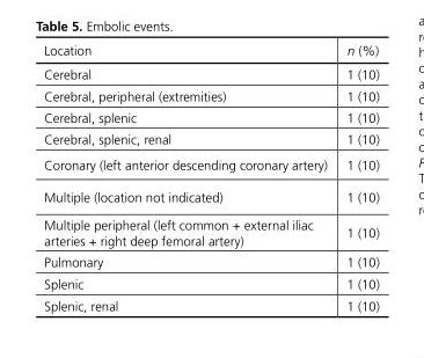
<table><thead><tr><td>Location</td><td>n (%)</td></tr></thead><tbody><tr><td>Cerebral</td><td>1 (10)</td></tr><tr><td>Cerebral, peripheral (extremities)</td><td>1 (10)</td></tr><tr><td>Cerebral, splenic</td><td>1 (10)</td></tr><tr><td>Cerebral, splenic, renal</td><td>1 (10)</td></tr><tr><td>Coronary (left anterior descending coronary artery)</td><td>1 (10)</td></tr><tr><td>Multiple (location not indicated)</td><td>1 (10)</td></tr><tr><td>Multiple peripheral (left common + external iliac arteries + right deep femoral artery)</td><td>1 (10)</td></tr><tr><td>Pulmonary</td><td>1 (10)</td></tr><tr><td>Splenic</td><td>1 (10)</td></tr><tr><td>Splenic, renal</td><td>1 (10)</td></tr></tbody></table>